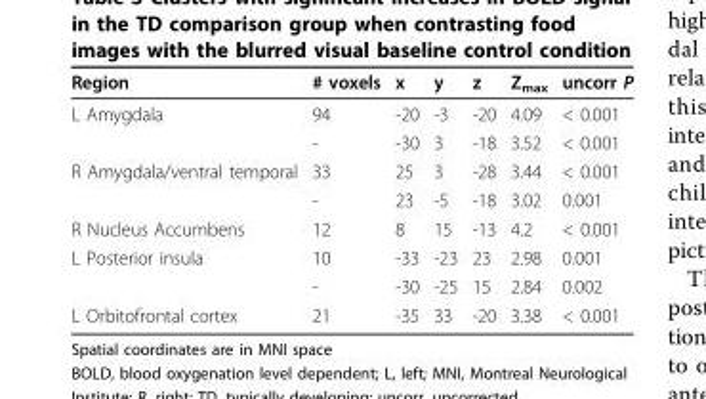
<table><thead><tr><td>Region</td><td># voxels</td><td>x</td><td>y</td><td>z</td><td>Z<sub>max</sub></td><td>uncorr P</td></tr></thead><tbody><tr><td rowspan="2">L Amygdala</td><td>94</td><td>-20</td><td>-3</td><td>-20</td><td>4.09</td><td>&lt; 0.001</td></tr><tr><td>-</td><td>-30</td><td>3</td><td>-18</td><td>3.52</td><td>&lt; 0.001</td></tr><tr><td rowspan="2">R Amygdala/ventral temporal</td><td>33</td><td>25</td><td>3</td><td>-28</td><td>3.44</td><td>&lt; 0.001</td></tr><tr><td>-</td><td>23</td><td>-5</td><td>-18</td><td>3.02</td><td>0.001</td></tr><tr><td>R Nucleus Accumbens</td><td>12</td><td>8</td><td>15</td><td>-13</td><td>4.2</td><td>&lt; 0.001</td></tr><tr><td rowspan="2">L Posterior insula</td><td>10</td><td>-33</td><td>-23</td><td>23</td><td>2.98</td><td>0.001</td></tr><tr><td>-</td><td>-30</td><td>-25</td><td>15</td><td>2.84</td><td>0.002</td></tr><tr><td>L Orbitofrontal cortex</td><td>21</td><td>-35</td><td>33</td><td>-20</td><td>3.38</td><td>&lt; 0.001</td></tr></tbody></table>